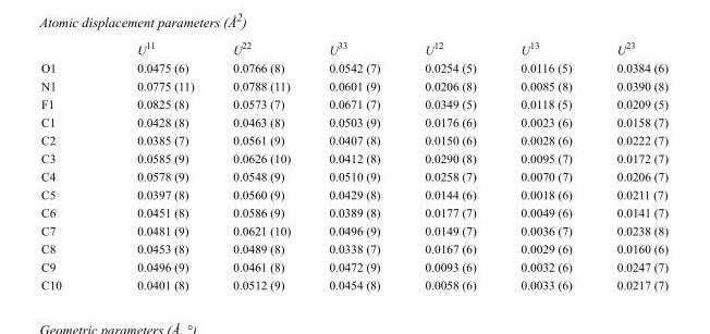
<table><thead><tr><td></td><td>U<sup>11</sup></td><td>U<sup>22</sup></td><td>U<sup>33</sup></td><td>U<sup>12</sup></td><td>U<sup>13</sup></td><td>U<sup>23</sup></td></tr></thead><tbody><tr><td>O1</td><td>0.0475 (6)</td><td>0.0766 (8)</td><td>0.0542 (7)</td><td>0.0254 (5)</td><td>0.0116 (5)</td><td>0.0384 (6)</td></tr><tr><td>N1</td><td>0.0775 (11)</td><td>0.0788 (11)</td><td>0.0601 (9)</td><td>0.0206 (8)</td><td>0.0085 (8)</td><td>0.0390 (8)</td></tr><tr><td>F1</td><td>0.0825 (8)</td><td>0.0573 (7)</td><td>0.0671 (7)</td><td>0.0349 (5)</td><td>0.0118 (5)</td><td>0.0209 (5)</td></tr><tr><td>C1</td><td>0.0428 (8)</td><td>0.0463 (8)</td><td>0.0503 (9)</td><td>0.0176 (6)</td><td>0.0023 (6)</td><td>0.0158 (7)</td></tr><tr><td>C2</td><td>0.0385 (7)</td><td>0.0561 (9)</td><td>0.0407 (8)</td><td>0.0150 (6)</td><td>0.0028 (6)</td><td>0.0222 (7)</td></tr><tr><td>C3</td><td>0.0585 (9)</td><td>0.0626 (10)</td><td>0.0412 (8)</td><td>0.0290 (8)</td><td>0.0095 (7)</td><td>0.0172 (7)</td></tr><tr><td>C4</td><td>0.0578 (9)</td><td>0.0548 (9)</td><td>0.0510 (9)</td><td>0.0258 (7)</td><td>0.0070 (7)</td><td>0.0206 (7)</td></tr><tr><td>C5</td><td>0.0397 (8)</td><td>0.0560 (9)</td><td>0.0429 (8)</td><td>0.0144 (6)</td><td>0.0018 (6)</td><td>0.0211 (7)</td></tr><tr><td>C6</td><td>0.0451 (8)</td><td>0.0586 (9)</td><td>0.0389 (8)</td><td>0.0177 (7)</td><td>0.0049 (6)</td><td>0.0141 (7)</td></tr><tr><td>C7</td><td>0.0481 (9)</td><td>0.0621 (10)</td><td>0.0496 (9)</td><td>0.0149 (7)</td><td>0.0036 (7)</td><td>0.0238 (8)</td></tr><tr><td>C8</td><td>0.0453 (8)</td><td>0.0489 (8)</td><td>0.0338 (7)</td><td>0.0167 (6)</td><td>0.0029 (6)</td><td>0.0160 (6)</td></tr><tr><td>C9</td><td>0.0496 (9)</td><td>0.0461 (8)</td><td>0.0472 (9)</td><td>0.0093 (6)</td><td>0.0032 (6)</td><td>0.0247 (7)</td></tr><tr><td>C10</td><td>0.0401 (8)</td><td>0.0512 (9)</td><td>0.0454 (8)</td><td>0.0058 (6)</td><td>0.0033 (6)</td><td>0.0217 (7)</td></tr></tbody></table>